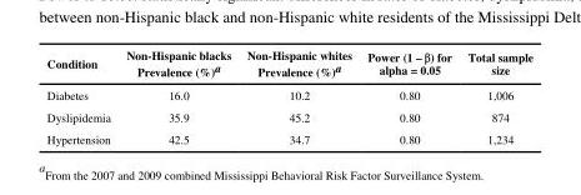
<table><thead><tr><td>Condition</td><td>Non-Hispanic blacks Prevalence (%)<sup>a</sup></td><td>Non-Hispanic whites Prevalence (%)<sup>a</sup></td><td>Power (1 – β) for alpha = 0.05</td><td>Total sample size</td></tr></thead><tbody><tr><td>Diabetes</td><td>16.0</td><td>10.2</td><td>0.80</td><td>1,006</td></tr><tr><td>Dyslipidemia</td><td>35.9</td><td>45.2</td><td>0.80</td><td>874</td></tr><tr><td>Hypertension</td><td>42.5</td><td>34.7</td><td>0.80</td><td>1,234</td></tr></tbody></table>